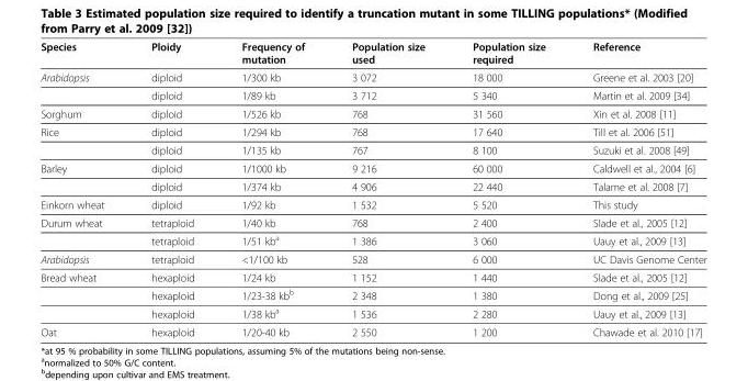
<table><thead><tr><td>Species</td><td>Ploidy</td><td>Frequency of mutation</td><td>Population size used</td><td>Population size required</td><td>Reference</td></tr></thead><tbody><tr><td rowspan="2">Arabidopsis</td><td>diploid</td><td>1/300 kb</td><td>3 072</td><td>18 000</td><td>Greene et al. 2003 [20]</td></tr><tr><td>diploid</td><td>1/89 kb</td><td>3 712</td><td>5 340</td><td>Martin et al. 2009 [34]</td></tr><tr><td>Sorghum</td><td>diploid</td><td>1/526 kb</td><td>768</td><td>31 560</td><td>Xin et al. 2008 [11]</td></tr><tr><td rowspan="2">Rice</td><td>diploid</td><td>1/294 kb</td><td>768</td><td>17 640</td><td>Till et al. 2006 [51]</td></tr><tr><td>diploid</td><td>1/135 kb</td><td>767</td><td>8 100</td><td>Suzuki et al. 2008 [49]</td></tr><tr><td rowspan="2">Barley</td><td>diploid</td><td>1/1000 kb</td><td>9 216</td><td>60 000</td><td>Caldwell et al., 2004 [6]</td></tr><tr><td>diploid</td><td>1/374 kb</td><td>4 906</td><td>22 440</td><td>Talame et al. 2008 [7]</td></tr><tr><td>Einkorn wheat</td><td>diploid</td><td>1/92 kb</td><td>1 532</td><td>5 520</td><td>This study</td></tr><tr><td rowspan="2">Durum wheat</td><td>tetraploid</td><td>1/40 kb</td><td>768</td><td>2 400</td><td>Slade et al., 2005 [12]</td></tr><tr><td>tetraploid</td><td>1/51 kb<sup>a</sup></td><td>1 386</td><td>3 060</td><td>Uauy et al., 2009 [13]</td></tr><tr><td>Arabidopsis</td><td>tetraploid</td><td>&lt;1/100 kb</td><td>528</td><td>6 000</td><td>UC Davis Genome Center</td></tr><tr><td rowspan="3">Bread wheat</td><td>hexaploid</td><td>1/24 kb</td><td>1 152</td><td>1 440</td><td>Slade et al., 2005 [12]</td></tr><tr><td>hexaploid</td><td>1/23-38 kb<sup>b</sup></td><td>2 348</td><td>1 380</td><td>Dong et al., 2009 [25]</td></tr><tr><td>hexaploid</td><td>1/38 kb<sup>a</sup></td><td>1 536</td><td>2 280</td><td>Uauy et al., 2009 [13]</td></tr><tr><td>Oat</td><td>hexaploid</td><td>1/20-40 kb</td><td>2 550</td><td>1 200</td><td>Chawade et al. 2010 [17]</td></tr></tbody></table>